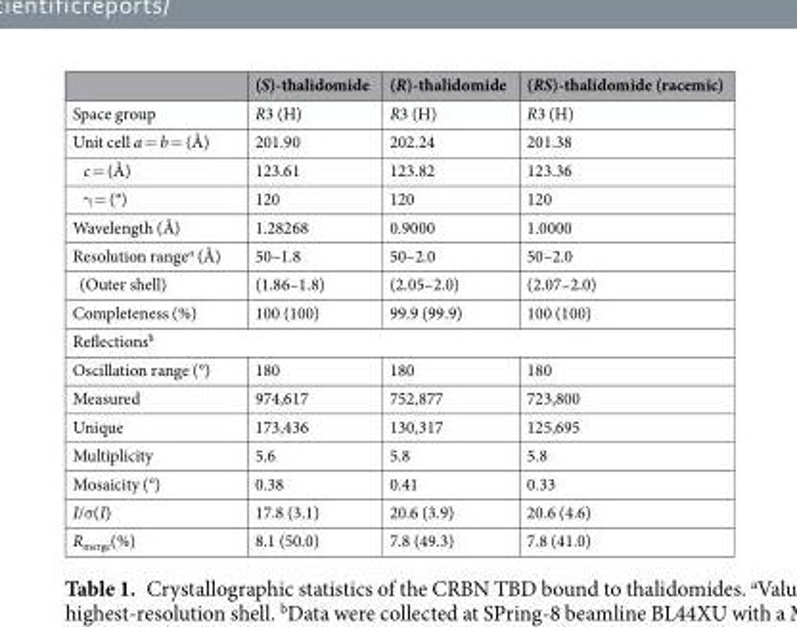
<table><thead><tr><td></td><td>(S)-thalidomide</td><td>(R)-thalidomide</td><td>(RS)-thalidomide (racemic)</td></tr></thead><tbody><tr><td>Space group</td><td>R3 (H)</td><td>R3 (H)</td><td>R3 (H)</td></tr><tr><td>Unit cell a = b = (Å)</td><td>201.90</td><td>202.24</td><td>201.38</td></tr><tr><td>c = (Å)</td><td>123.61</td><td>123.82</td><td>123.36</td></tr><tr><td>γ = (°)</td><td>120</td><td>120</td><td>120</td></tr><tr><td>Wavelength (Å)</td><td>1.28268</td><td>0.9000</td><td>1.0000</td></tr><tr><td>Resolution range<sup>a</sup> (Å)</td><td>50–1.8</td><td>50–2.0</td><td>50–2.0</td></tr><tr><td>(Outer shell)</td><td>(1.86–1.8)</td><td>(2.05–2.0)</td><td>(2.07–2.0)</td></tr><tr><td>Completeness (%)</td><td>100 (100)</td><td>99.9 (99.9)</td><td>100 (100)</td></tr><tr><td colspan="4">Reflections<sup>b</sup></td></tr><tr><td>Oscillation range (°)</td><td>180</td><td>180</td><td>180</td></tr><tr><td>Measured</td><td>974,617</td><td>752,877</td><td>723,800</td></tr><tr><td>Unique</td><td>173,436</td><td>130,317</td><td>125,695</td></tr><tr><td>Multiplicity</td><td>5.6</td><td>5.8</td><td>5.8</td></tr><tr><td>Mosaicity (°)</td><td>0.38</td><td>0.41</td><td>0.33</td></tr><tr><td>I/σ(I)</td><td>17.8 (3.1)</td><td>20.6 (3.9)</td><td>20.6 (4.6)</td></tr><tr><td>R<sub>merge</sub>(%)</td><td>8.1 (50.0)</td><td>7.8 (49.3)</td><td>7.8 (41.0)</td></tr></tbody></table>